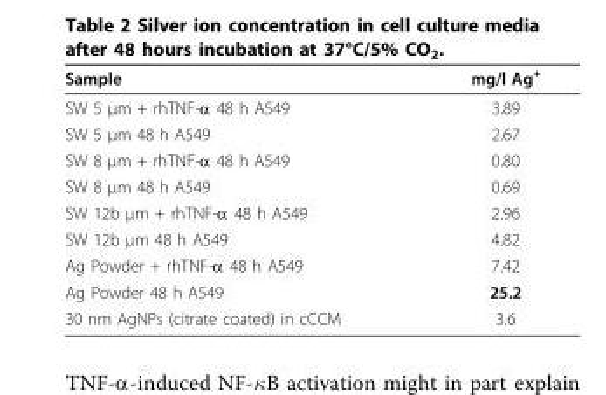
<table><thead><tr><td>Sample</td><td>mg/l Ag<sup>+</sup></td></tr></thead><tbody><tr><td>SW 5 μm + rhTNF-α 48 h A549</td><td>3.89</td></tr><tr><td>SW 5 μm 48 h A549</td><td>2.67</td></tr><tr><td>SW 8 μm + rhTNF-α 48 h A549</td><td>0.80</td></tr><tr><td>SW 8 μm 48 h A549</td><td>0.69</td></tr><tr><td>SW 12b μm + rhTNF-α 48 h A549</td><td>2.96</td></tr><tr><td>SW 12b μm 48 h A549</td><td>4.82</td></tr><tr><td>Ag Powder + rhTNF-α 48 h A549</td><td>7.42</td></tr><tr><td>Ag Powder 48 h A549</td><td>25.2</td></tr><tr><td>30 nm AgNPs (citrate coated) in cCCM</td><td>3.6</td></tr></tbody></table>